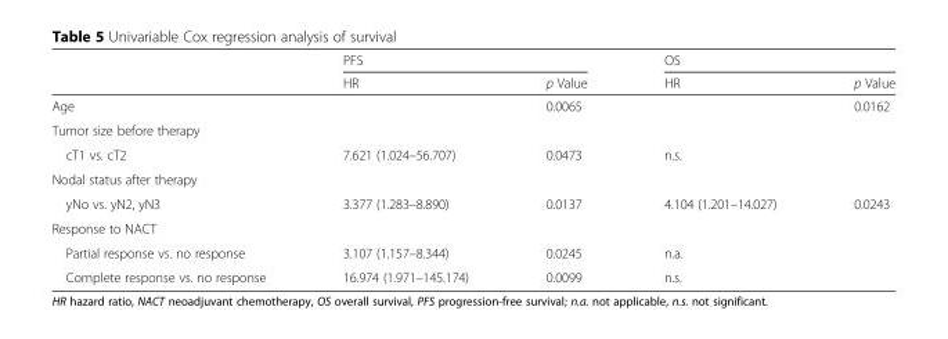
<table><thead><tr><td rowspan="2"></td><td colspan="2">PFS</td><td colspan="2">OS</td></tr><tr><td>HR</td><td>p Value</td><td>HR</td><td>p Value</td></tr></thead><tbody><tr><td>Age</td><td></td><td>0.0065</td><td></td><td>0.0162</td></tr><tr><td colspan="5">Tumor size before therapy</td></tr><tr><td>cT1 vs. cT2</td><td>7.621 (1.024–56.707)</td><td>0.0473</td><td colspan="2">n.s.</td></tr><tr><td colspan="5">Nodal status after therapy</td></tr><tr><td>yNo vs. yN2, yN3</td><td>3.377 (1.283–8.890)</td><td>0.0137</td><td>4.104 (1.201–14.027)</td><td>0.0243</td></tr><tr><td colspan="5">Response to NACT</td></tr><tr><td>Partial response vs. no response</td><td>3.107 (1.157–8.344)</td><td>0.0245</td><td colspan="2">n.a.</td></tr><tr><td>Complete response vs. no response</td><td>16.974 (1.971–145.174)</td><td>0.0099</td><td colspan="2">n.s.</td></tr></tbody></table>